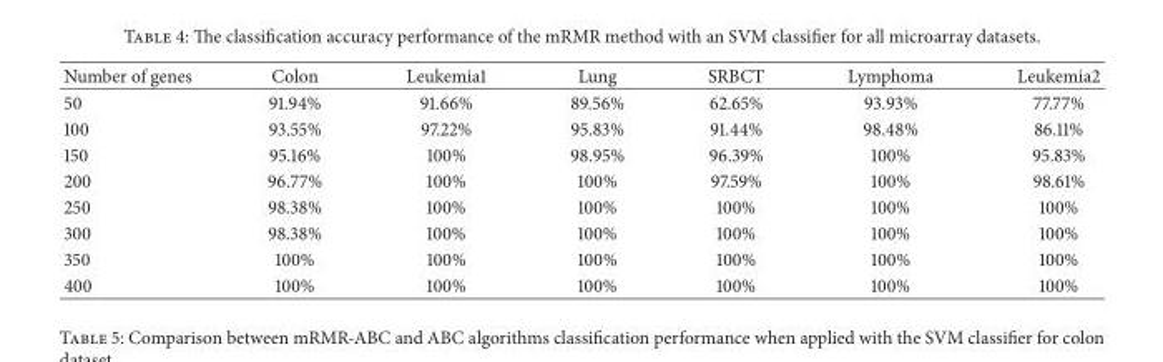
<table><thead><tr><td>Number of genes</td><td>Colon</td><td>Leukemia1</td><td>Lung</td><td>SRBCT</td><td>Lymphoma</td><td>Leukemia2</td></tr></thead><tbody><tr><td>50</td><td>91.94%</td><td>91.66%</td><td>89.56%</td><td>62.65%</td><td>93.93%</td><td>77.77%</td></tr><tr><td>100</td><td>93.55%</td><td>97.22%</td><td>95.83%</td><td>91.44%</td><td>98.48%</td><td>86.11%</td></tr><tr><td>150</td><td>95.16%</td><td>100%</td><td>98.95%</td><td>96.39%</td><td>100%</td><td>95.83%</td></tr><tr><td>200</td><td>96.77%</td><td>100%</td><td>100%</td><td>97.59%</td><td>100%</td><td>98.61%</td></tr><tr><td>250</td><td>98.38%</td><td>100%</td><td>100%</td><td>100%</td><td>100%</td><td>100%</td></tr><tr><td>300</td><td>98.38%</td><td>100%</td><td>100%</td><td>100%</td><td>100%</td><td>100%</td></tr><tr><td>350</td><td>100%</td><td>100%</td><td>100%</td><td>100%</td><td>100%</td><td>100%</td></tr><tr><td>400</td><td>100%</td><td>100%</td><td>100%</td><td>100%</td><td>100%</td><td>100%</td></tr></tbody></table>